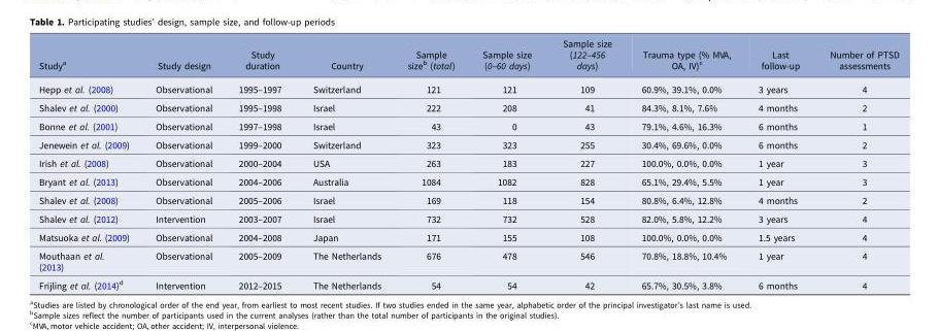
<table><thead><tr><td>Study<sup>a</sup></td><td>Study design</td><td>Study duration</td><td>Country</td><td>Sample size<sup>b</sup> (total)</td><td>Sample size (0–60 days)</td><td>Sample size (122–456 days)</td><td>Trauma type (% MVA, OA, IV)<sup>c</sup></td><td>Last follow-up</td><td>Number of PTSD assessments</td></tr></thead><tbody><tr><td>Hepp et al. (2008)</td><td>Observational</td><td>1995–1997</td><td>Switzerland</td><td>121</td><td>121</td><td>109</td><td>60.9%, 39.1%, 0.0%</td><td>3 years</td><td>4</td></tr><tr><td>Shalev et al. (2000)</td><td>Observational</td><td>1995–1998</td><td>Israel</td><td>222</td><td>208</td><td>41</td><td>84.3%, 8.1%, 7.6%</td><td>4 months</td><td>2</td></tr><tr><td>Bonne et al. (2001)</td><td>Observational</td><td>1997–1998</td><td>Israel</td><td>43</td><td>0</td><td>43</td><td>79.1%, 4.6%, 16.3%</td><td>6 months</td><td>1</td></tr><tr><td>Jenewein et al. (2009)</td><td>Observational</td><td>1999–2000</td><td>Switzerland</td><td>323</td><td>323</td><td>255</td><td>30.4%, 69.6%, 0.0%</td><td>6 months</td><td>2</td></tr><tr><td>Irish et al. (2008)</td><td>Observational</td><td>2000–2004</td><td>USA</td><td>263</td><td>183</td><td>227</td><td>100.0%, 0.0%, 0.0%</td><td>1 year</td><td>3</td></tr><tr><td>Bryant et al. (2013)</td><td>Observational</td><td>2004–2006</td><td>Australia</td><td>1084</td><td>1082</td><td>828</td><td>65.1%, 29.4%, 5.5%</td><td>1 year</td><td>3</td></tr><tr><td>Shalev et al. (2008)</td><td>Observational</td><td>2005–2006</td><td>Israel</td><td>169</td><td>118</td><td>154</td><td>80.8%, 6.4%, 12.8%</td><td>4 months</td><td>2</td></tr><tr><td>Shalev et al. (2012)</td><td>Intervention</td><td>2003–2007</td><td>Israel</td><td>732</td><td>732</td><td>528</td><td>82.0%, 5.8%, 12.2%</td><td>3 years</td><td>4</td></tr><tr><td>Matsuoka et al. (2009)</td><td>Observational</td><td>2004–2008</td><td>Japan</td><td>171</td><td>155</td><td>108</td><td>100.0%, 0.0%, 0.0%</td><td>1.5 years</td><td>4</td></tr><tr><td>Mouthaan et al. (2013)</td><td>Observational</td><td>2005–2009</td><td>The Netherlands</td><td>676</td><td>478</td><td>546</td><td>70.8%, 18.8%, 10.4%</td><td>1 year</td><td>4</td></tr><tr><td>Frijling et al. (2014)<sup>d</sup></td><td>Intervention</td><td>2012–2015</td><td>The Netherlands</td><td>54</td><td>54</td><td>42</td><td>65.7%, 30.5%, 3.8%</td><td>6 months</td><td>4</td></tr></tbody></table>